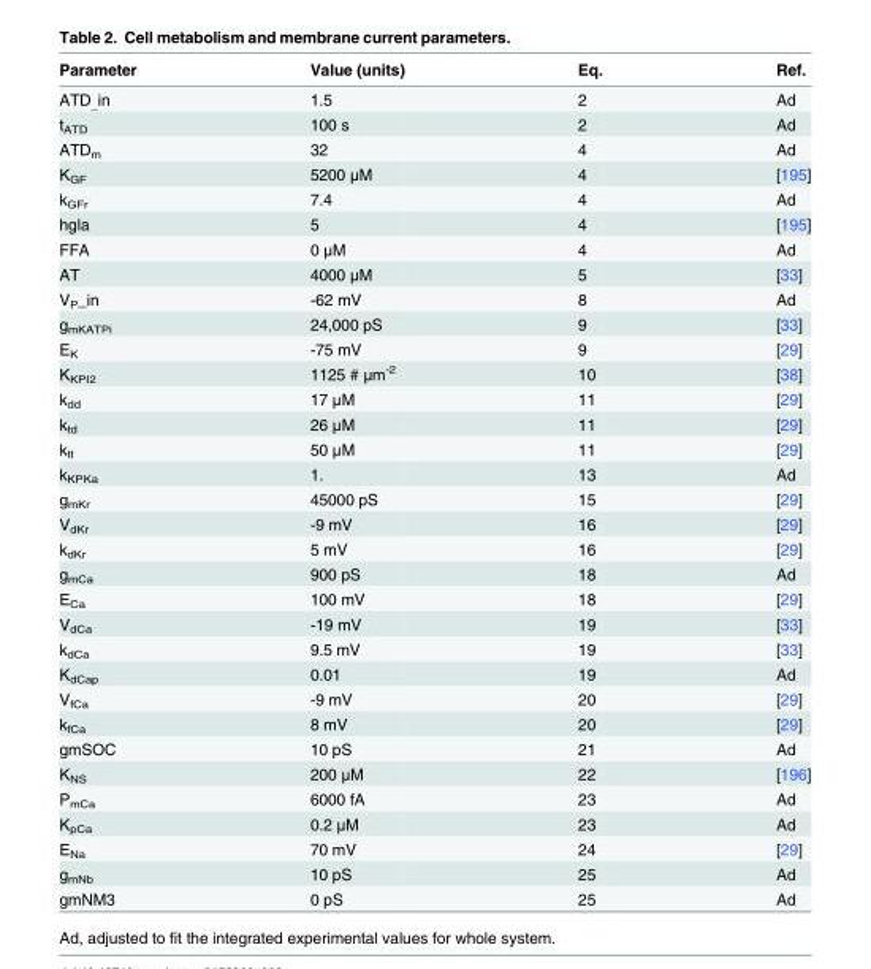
<table><thead><tr><td>Parameter</td><td>Value (units)</td><td>Eq.</td><td>Ref.</td></tr></thead><tbody><tr><td>ATD<sub>_</sub>in</td><td>1.5</td><td>2</td><td>Ad</td></tr><tr><td>t<sub>ATD</sub></td><td>100 s</td><td>2</td><td>Ad</td></tr><tr><td>ATD<sub>m</sub></td><td>32</td><td>4</td><td>Ad</td></tr><tr><td>K<sub>GF</sub></td><td>5200 μM</td><td>4</td><td>[195]</td></tr><tr><td>k<sub>GFr</sub></td><td>7.4</td><td>4</td><td>Ad</td></tr><tr><td>hgla</td><td>5</td><td>4</td><td>[195]</td></tr><tr><td>FFA</td><td>0 μM</td><td>4</td><td>Ad</td></tr><tr><td>AT</td><td>4000 μM</td><td>5</td><td>[33]</td></tr><tr><td>VP_in</td><td>-62 mV</td><td>8</td><td>Ad</td></tr><tr><td>g<sub>mKATPi</sub></td><td>24,000 pS</td><td>9</td><td>[33]</td></tr><tr><td>E<sub>K</sub></td><td>-75 mV</td><td>9</td><td>[29]</td></tr><tr><td>K<sub>KPI2</sub></td><td>1125 # μm<sup>-2</sup></td><td>10</td><td>[38]</td></tr><tr><td>k<sub>dd</sub></td><td>17 μM</td><td>11</td><td>[29]</td></tr><tr><td>k<sub>td</sub></td><td>26 μM</td><td>11</td><td>[29]</td></tr><tr><td>k<sub>tt</sub></td><td>50 μM</td><td>11</td><td>[29]</td></tr><tr><td>k<sub>KPKa</sub></td><td>1.</td><td>13</td><td>Ad</td></tr><tr><td>g<sub>mKr</sub></td><td>45000 pS</td><td>15</td><td>[29]</td></tr><tr><td>V<sub>dKr</sub></td><td>-9 mV</td><td>16</td><td>[29]</td></tr><tr><td>k<sub>dKr</sub></td><td>5 mV</td><td>16</td><td>[29]</td></tr><tr><td>g<sub>mCa</sub></td><td>900 pS</td><td>18</td><td>Ad</td></tr><tr><td>E<sub>Ca</sub></td><td>100 mV</td><td>18</td><td>[29]</td></tr><tr><td>V<sub>dCa</sub></td><td>-19 mV</td><td>19</td><td>[33]</td></tr><tr><td>k<sub>dCa</sub></td><td>9.5 mV</td><td>19</td><td>[33]</td></tr><tr><td>K<sub>dCap</sub></td><td>0.01</td><td>19</td><td>Ad</td></tr><tr><td>V<sub>fCa</sub></td><td>-9 mV</td><td>20</td><td>[29]</td></tr><tr><td>k<sub>fCa</sub></td><td>8 mV</td><td>20</td><td>[29]</td></tr><tr><td>gmSOC</td><td>10 pS</td><td>21</td><td>Ad</td></tr><tr><td>K<sub>NS</sub></td><td>200 μM</td><td>22</td><td>[196]</td></tr><tr><td>P<sub>mCa</sub></td><td>6000 fA</td><td>23</td><td>Ad</td></tr><tr><td>K<sub>pCa</sub></td><td>0.2 μM</td><td>23</td><td>Ad</td></tr><tr><td>E<sub>Na</sub></td><td>70 mV</td><td>24</td><td>[29]</td></tr><tr><td>g<sub>mNb</sub></td><td>10 pS</td><td>25</td><td>Ad</td></tr><tr><td>gmNM3</td><td>0 pS</td><td>25</td><td>Ad</td></tr></tbody></table>